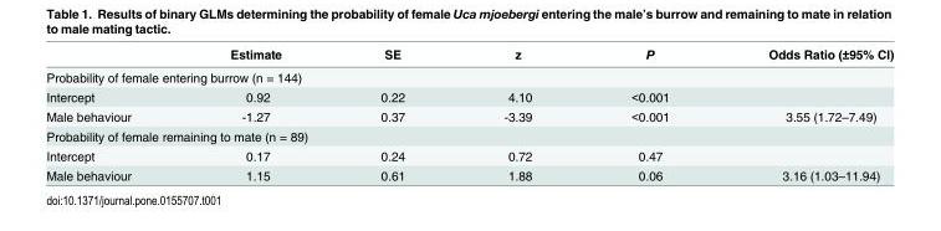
<table><thead><tr><td></td><td>Estimate</td><td>SE</td><td>z</td><td>P</td><td>Odds Ratio (±95% CI)</td></tr></thead><tbody><tr><td colspan="6">Probability of female entering burrow (n = 144)</td></tr><tr><td>Intercept</td><td>0.92</td><td>0.22</td><td>4.10</td><td>&lt;0.001</td><td></td></tr><tr><td>Male behaviour</td><td>-1.27</td><td>0.37</td><td>-3.39</td><td>&lt;0.001</td><td>3.55 (1.72–7.49)</td></tr><tr><td colspan="6">Probability of female remaining to mate (n = 89)</td></tr><tr><td>Intercept</td><td>0.17</td><td>0.24</td><td>0.72</td><td>0.47</td><td></td></tr><tr><td>Male behaviour</td><td>1.15</td><td>0.61</td><td>1.88</td><td>0.06</td><td>3.16 (1.03–11.94)</td></tr></tbody></table>